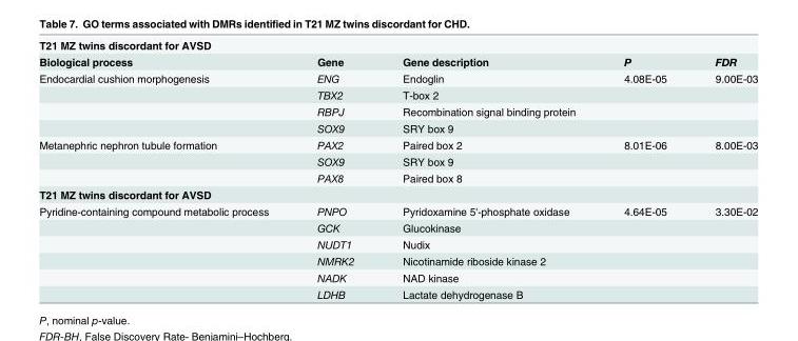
<table><tbody><tr><td colspan="5">T21 MZ twins discordant for AVSD</td></tr><tr><td>Biological process</td><td>Gene</td><td>Gene description</td><td>P</td><td>FDR</td></tr><tr><td rowspan="4">Endocardial cushion morphogenesis</td><td>ENG</td><td>Endoglin</td><td>4.08E-05</td><td>9.00E-03</td></tr><tr><td>TBX2</td><td>T-box 2</td><td></td><td></td></tr><tr><td>RBPJ</td><td>Recombination signal binding protein</td><td></td><td></td></tr><tr><td>SOX9</td><td>SRY box 9</td><td></td><td></td></tr><tr><td rowspan="3">Metanephric nephron tubule formation</td><td>PAX2</td><td>Paired box 2</td><td>8.01E-06</td><td>8.00E-03</td></tr><tr><td>SOX9</td><td>SRY box 9</td><td></td><td></td></tr><tr><td>PAX8</td><td>Paired box 8</td><td></td><td></td></tr><tr><td colspan="5">T21 MZ twins discordant for AVSD</td></tr><tr><td rowspan="6">Pyridine-containing compound metabolic process</td><td>PNPO</td><td>Pyridoxamine 5&#x27;-phosphate oxidase</td><td>4.64E-05</td><td>3.30E-02</td></tr><tr><td>GCK</td><td>Glucokinase</td><td></td><td></td></tr><tr><td>NUDT1</td><td>Nudix</td><td></td><td></td></tr><tr><td>NMRK2</td><td>Nicotinamide riboside kinase 2</td><td></td><td></td></tr><tr><td>NADK</td><td>NAD kinase</td><td></td><td></td></tr><tr><td>LDHB</td><td>Lactate dehydrogenase B</td><td></td><td></td></tr></tbody></table>